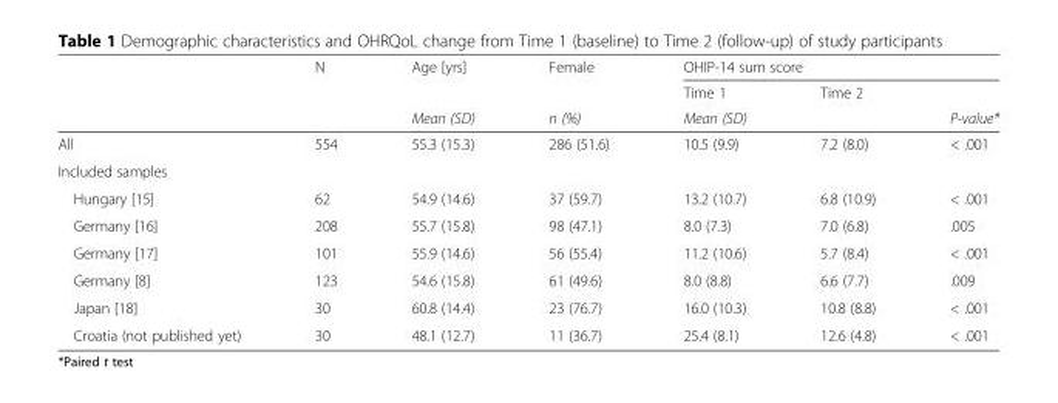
<table><thead><tr><td rowspan="3"></td><td rowspan="3">N</td><td rowspan="3">Age [yrs] Mean (SD)</td><td rowspan="3">Female n (%)</td><td colspan="3">OHIP-14 sum score</td></tr><tr><td>Time 1</td><td>Time 2</td><td rowspan="2">P-value*</td></tr><tr><td colspan="2">Mean (SD)</td></tr></thead><tbody><tr><td>All</td><td>554</td><td>55.3 (15.3)</td><td>286 (51.6)</td><td>10.5 (9.9)</td><td>7.2 (8.0)</td><td>&lt; .001</td></tr><tr><td colspan="7">Included samples</td></tr><tr><td>Hungary [15]</td><td>62</td><td>54.9 (14.6)</td><td>37 (59.7)</td><td>13.2 (10.7)</td><td>6.8 (10.9)</td><td>&lt; .001</td></tr><tr><td>Germany [16]</td><td>208</td><td>55.7 (15.8)</td><td>98 (47.1)</td><td>8.0 (7.3)</td><td>7.0 (6.8)</td><td>.005</td></tr><tr><td>Germany [17]</td><td>101</td><td>55.9 (14.6)</td><td>56 (55.4)</td><td>11.2 (10.6)</td><td>5.7 (8.4)</td><td>&lt; .001</td></tr><tr><td>Germany [8]</td><td>123</td><td>54.6 (15.8)</td><td>61 (49.6)</td><td>8.0 (8.8)</td><td>6.6 (7.7)</td><td>.009</td></tr><tr><td>Japan [18]</td><td>30</td><td>60.8 (14.4)</td><td>23 (76.7)</td><td>16.0 (10.3)</td><td>10.8 (8.8)</td><td>&lt; .001</td></tr><tr><td>Croatia (not published yet)</td><td>30</td><td>48.1 (12.7)</td><td>11 (36.7)</td><td>25.4 (8.1)</td><td>12.6 (4.8)</td><td>&lt; .001</td></tr></tbody></table>